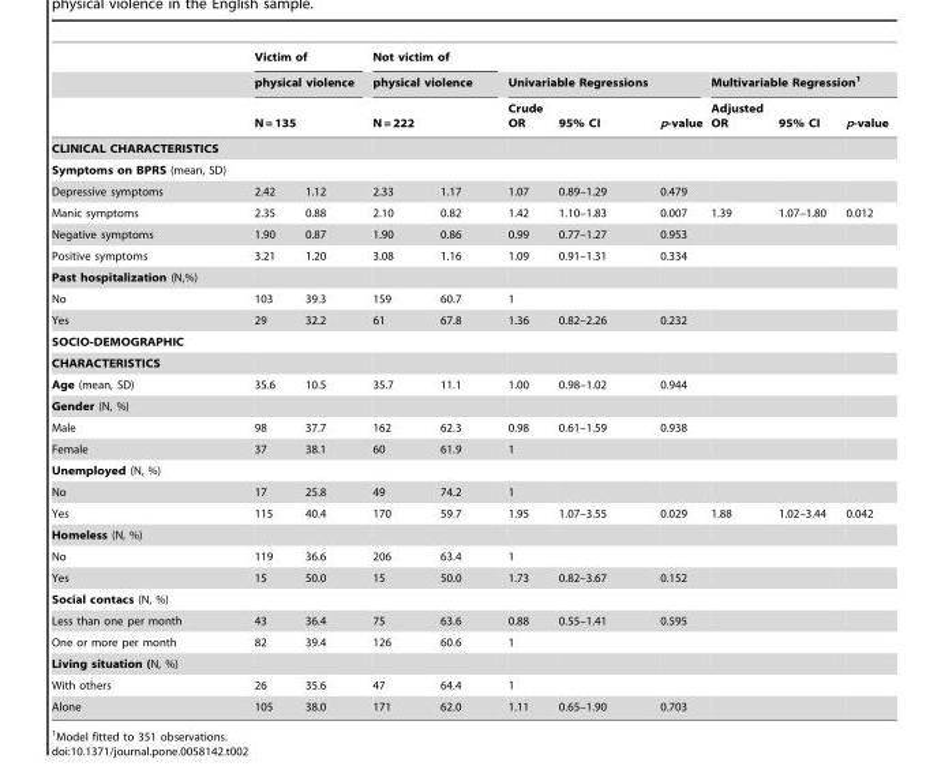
<table><thead><tr><td rowspan="4">CLINICAL CHARACTERISTICS</td><td rowspan="3" colspan="2">Victim of physical violence N = 135</td><td rowspan="3" colspan="2">Not victim of physical violence N = 222</td><td></td><td></td><td></td><td></td><td></td><td></td></tr><tr><td colspan="3">Univariable Regressions</td><td colspan="3">Multivariable Regression<sup>1</sup></td></tr><tr><td rowspan="2">Crude OR</td><td rowspan="2">95% CI</td><td rowspan="2">p-value</td><td rowspan="2">Adjusted OR</td><td rowspan="2">95% CI</td><td rowspan="2">p-value</td></tr><tr><td></td><td></td><td></td><td></td></tr></thead><tbody><tr><td colspan="11">Symptoms on BPRS (mean, SD)</td></tr><tr><td>Depressive symptoms</td><td>2.42</td><td>1.12</td><td>2.33</td><td>1.17</td><td>1.07</td><td>0.89–1.29</td><td>0.479</td><td></td><td></td><td></td></tr><tr><td>Manic symptoms</td><td>2.35</td><td>0.88</td><td>2.10</td><td>0.82</td><td>1.42</td><td>1.10–1.83</td><td>0.007</td><td>1.39</td><td>1.07–1.80</td><td>0.012</td></tr><tr><td>Negative symptoms</td><td>1.90</td><td>0.87</td><td>1.90</td><td>0.86</td><td>0.99</td><td>0.77–1.27</td><td>0.953</td><td></td><td></td><td></td></tr><tr><td>Positive symptoms</td><td>3.21</td><td>1.20</td><td>3.08</td><td>1.16</td><td>1.09</td><td>0.91–1.31</td><td>0.334</td><td></td><td></td><td></td></tr><tr><td colspan="11">Past hospitalization (N,%)</td></tr><tr><td>No</td><td>103</td><td>39.3</td><td>159</td><td>60.7</td><td>1</td><td></td><td></td><td></td><td></td><td></td></tr><tr><td>Yes</td><td>29</td><td>32.2</td><td>61</td><td>67.8</td><td>1.36</td><td>0.82–2.26</td><td>0.232</td><td></td><td></td><td></td></tr><tr><td colspan="11">SOCIO-DEMOGRAPHIC</td></tr><tr><td colspan="11">CHARACTERISTICS</td></tr><tr><td>Age (mean, SD)</td><td>35.6</td><td>10.5</td><td>35.7</td><td>11.1</td><td>1.00</td><td>0.98–1.02</td><td>0.944</td><td></td><td></td><td></td></tr><tr><td colspan="11">Gender (N, %)</td></tr><tr><td>Male</td><td>98</td><td>37.7</td><td>162</td><td>62.3</td><td>0.98</td><td>0.61–1.59</td><td>0.938</td><td></td><td></td><td></td></tr><tr><td>Female</td><td>37</td><td>38.1</td><td>60</td><td>61.9</td><td>1</td><td></td><td></td><td></td><td></td><td></td></tr><tr><td colspan="11">Unemployed (N, %)</td></tr><tr><td>No</td><td>17</td><td>25.8</td><td>49</td><td>74.2</td><td>1</td><td></td><td></td><td></td><td></td><td></td></tr><tr><td>Yes</td><td>115</td><td>40.4</td><td>170</td><td>59.7</td><td>1.95</td><td>1.07–3.55</td><td>0.029</td><td>1.88</td><td>1.02–3.44</td><td>0.042</td></tr><tr><td colspan="11">Homeless (N, %)</td></tr><tr><td>No</td><td>119</td><td>36.6</td><td>206</td><td>63.4</td><td>1</td><td></td><td></td><td></td><td></td><td></td></tr><tr><td>Yes</td><td>15</td><td>50.0</td><td>15</td><td>50.0</td><td>1.73</td><td>0.82–3.67</td><td>0.152</td><td></td><td></td><td></td></tr><tr><td colspan="11">Social contacs (N, %)</td></tr><tr><td>Less than one per month</td><td>43</td><td>36.4</td><td>75</td><td>63.6</td><td>0.88</td><td>0.55–1.41</td><td>0.595</td><td></td><td></td><td></td></tr><tr><td>One or more per month</td><td>82</td><td>39.4</td><td>126</td><td>60.6</td><td>1</td><td></td><td></td><td></td><td></td><td></td></tr><tr><td colspan="11">Living situation (N, %)</td></tr><tr><td>With others</td><td>26</td><td>35.6</td><td>47</td><td>64.4</td><td>1</td><td></td><td></td><td></td><td></td><td></td></tr><tr><td>Alone</td><td>105</td><td>38.0</td><td>171</td><td>62.0</td><td>1.11</td><td>0.65–1.90</td><td>0.703</td><td></td><td></td><td></td></tr></tbody></table>